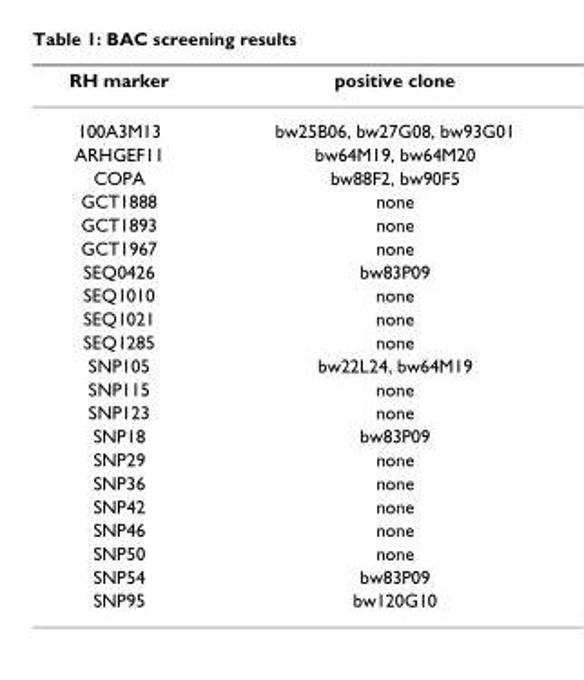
<table><thead><tr><td>RH marker</td><td>positive clone</td></tr></thead><tbody><tr><td>100A3M13</td><td>bw25B06, bw27G08, bw93G01</td></tr><tr><td>ARHGEF11</td><td>bw64M19, bw64M20</td></tr><tr><td>COPA</td><td>bw88F2, bw90F5</td></tr><tr><td>GCT1888</td><td>none</td></tr><tr><td>GCT1893</td><td>none</td></tr><tr><td>GCT1967</td><td>none</td></tr><tr><td>SEQ0426</td><td>bw83P09</td></tr><tr><td>SEQ1010</td><td>none</td></tr><tr><td>SEQ1021</td><td>none</td></tr><tr><td>SEQ1285</td><td>none</td></tr><tr><td>SNP105</td><td>bw22L24, bw64M19</td></tr><tr><td>SNP115</td><td>none</td></tr><tr><td>SNP123</td><td>none</td></tr><tr><td>SNP18</td><td>bw83P09</td></tr><tr><td>SNP29</td><td>none</td></tr><tr><td>SNP36</td><td>none</td></tr><tr><td>SNP42</td><td>none</td></tr><tr><td>SNP46</td><td>none</td></tr><tr><td>SNP50</td><td>none</td></tr><tr><td>SNP54</td><td>bw83P09</td></tr><tr><td>SNP95</td><td>bw120G10</td></tr></tbody></table>